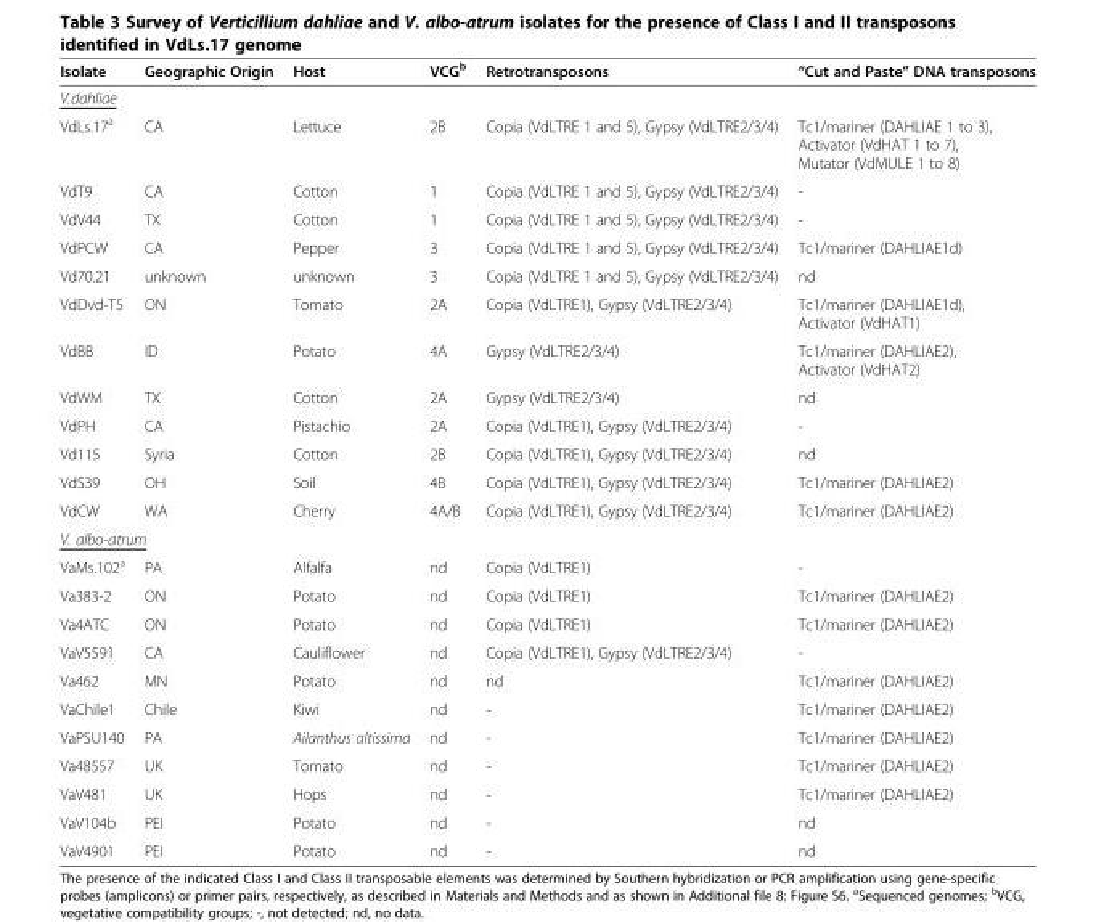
<table><thead><tr><td>Isolate</td><td>Geographic Origin</td><td>Host</td><td>VCG<sup>b</sup></td><td>Retrotransposons</td><td>“Cut and Paste” DNA transposons</td></tr></thead><tbody><tr><td colspan="6">V.dahliae</td></tr><tr><td>VdLs.17<sup>a</sup></td><td>CA</td><td>Lettuce</td><td>2B</td><td>Copia (VdLTRE 1 and 5), Gypsy (VdLTRE2/3/4)</td><td>Tc1/mariner (DAHLIAE 1 to 3), Activator (VdHAT 1 to 7), Mutator (VdMULE 1 to 8)</td></tr><tr><td>VdT9</td><td>CA</td><td>Cotton</td><td>1</td><td>Copia (VdLTRE 1 and 5), Gypsy (VdLTRE2/3/4)</td><td>-</td></tr><tr><td>VdV44</td><td>TX</td><td>Cotton</td><td>1</td><td>Copia (VdLTRE 1 and 5), Gypsy (VdLTRE2/3/4)</td><td>-</td></tr><tr><td>VdPCW</td><td>CA</td><td>Pepper</td><td>3</td><td>Copia (VdLTRE 1 and 5), Gypsy (VdLTRE2/3/4)</td><td>Tc1/mariner (DAHLIAE1d)</td></tr><tr><td>Vd70.21</td><td>unknown</td><td>unknown</td><td>3</td><td>Copia (VdLTRE 1 and 5), Gypsy (VdLTRE2/3/4)</td><td>nd</td></tr><tr><td>VdDvd-T5</td><td>ON</td><td>Tomato</td><td>2A</td><td>Copia (VdLTRE1), Gypsy (VdLTRE2/3/4)</td><td>Tc1/mariner (DAHLIAE1d), Activator (VdHAT1)</td></tr><tr><td>VdBB</td><td>ID</td><td>Potato</td><td>4A</td><td>Gypsy (VdLTRE2/3/4)</td><td>Tc1/mariner (DAHLIAE2), Activator (VdHAT2)</td></tr><tr><td>VdWM</td><td>TX</td><td>Cotton</td><td>2A</td><td>Gypsy (VdLTRE2/3/4)</td><td>nd</td></tr><tr><td>VdPH</td><td>CA</td><td>Pistachio</td><td>2A</td><td>Copia (VdLTRE1), Gypsy (VdLTRE2/3/4)</td><td>-</td></tr><tr><td>Vd115</td><td>Syria</td><td>Cotton</td><td>2B</td><td>Copia (VdLTRE1), Gypsy (VdLTRE2/3/4)</td><td>nd</td></tr><tr><td>VdS39</td><td>OH</td><td>Soil</td><td>4B</td><td>Copia (VdLTRE1), Gypsy (VdLTRE2/3/4)</td><td>Tc1/mariner (DAHLIAE2)</td></tr><tr><td>VdCW</td><td>WA</td><td>Cherry</td><td>4A/B</td><td>Copia (VdLTRE1), Gypsy (VdLTRE2/3/4)</td><td>Tc1/mariner (DAHLIAE2)</td></tr><tr><td colspan="6">V. albo-atrum</td></tr><tr><td>VaMs.102<sup>a</sup></td><td>PA</td><td>Alfalfa</td><td>nd</td><td>Copia (VdLTRE1)</td><td>-</td></tr><tr><td>Va383-2</td><td>ON</td><td>Potato</td><td>nd</td><td>Copia (VdLTRE1)</td><td>Tc1/mariner (DAHLIAE2)</td></tr><tr><td>Va4ATC</td><td>ON</td><td>Potato</td><td>nd</td><td>Copia (VdLTRE1)</td><td>Tc1/mariner (DAHLIAE2)</td></tr><tr><td>VaV5591</td><td>CA</td><td>Cauliflower</td><td>nd</td><td>Copia (VdLTRE1), Gypsy (VdLTRE2/3/4)</td><td>-</td></tr><tr><td>Va462</td><td>MN</td><td>Potato</td><td>nd</td><td>nd</td><td>Tc1/mariner (DAHLIAE2)</td></tr><tr><td>VaChile1</td><td>Chile</td><td>Kiwi</td><td>nd</td><td>-</td><td>Tc1/mariner (DAHLIAE2)</td></tr><tr><td>VaPSU140</td><td>PA</td><td>Ailanthus altissima</td><td>nd</td><td>-</td><td>Tc1/mariner (DAHLIAE2)</td></tr><tr><td>Va48557</td><td>UK</td><td>Tomato</td><td>nd</td><td>-</td><td>Tc1/mariner (DAHLIAE2)</td></tr><tr><td>VaV481</td><td>UK</td><td>Hops</td><td>nd</td><td>-</td><td>Tc1/mariner (DAHLIAE2)</td></tr><tr><td>VaV104b</td><td>PEI</td><td>Potato</td><td>nd</td><td>-</td><td>nd</td></tr><tr><td>VaV4901</td><td>PEI</td><td>Potato</td><td>nd</td><td>-</td><td>nd</td></tr></tbody></table>